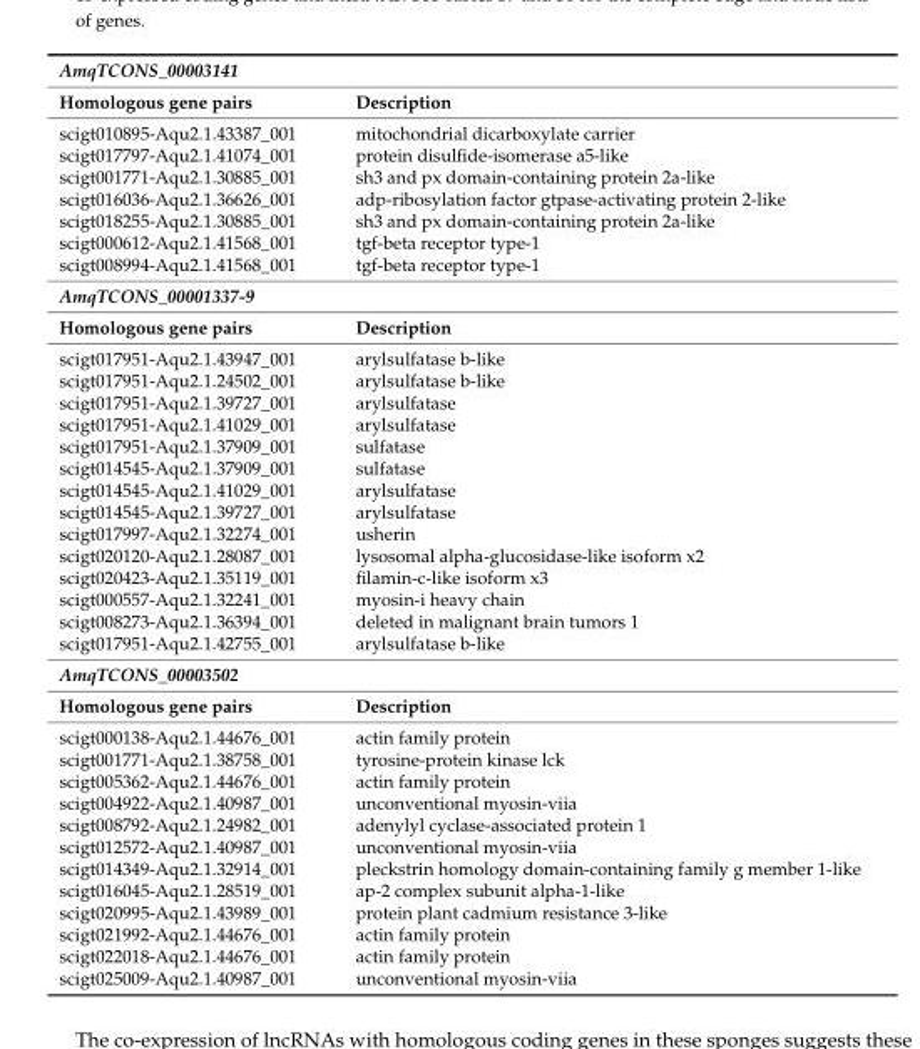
<table><tbody><tr><td colspan="2">AmqTCONS_00003141</td></tr><tr><td>Homologous gene pairs</td><td>Description</td></tr><tr><td>scigt010895-Aqu2.1.43387_001</td><td>mitochondrial dicarboxylate carrier</td></tr><tr><td>scigt017797-Aqu2.1.41074_001</td><td>protein disulfide-isomerase a5-like</td></tr><tr><td>scigt001771-Aqu2.1.30885_001</td><td>sh3 and px domain-containing protein 2a-like</td></tr><tr><td>scigt016036-Aqu2.1.36626_001</td><td>adp-ribosylation factor gtpase-activating protein 2-like</td></tr><tr><td>scigt018255-Aqu2.1.30885_001</td><td>sh3 and px domain-containing protein 2a-like</td></tr><tr><td>scigt000612-Aqu2.1.41568_001</td><td>tgf-beta receptor type-1</td></tr><tr><td>scigt008994-Aqu2.1.41568_001</td><td>tgf-beta receptor type-1</td></tr><tr><td colspan="2">AmqTCONS_00001337-9</td></tr><tr><td>Homologous gene pairs</td><td>Description</td></tr><tr><td>scigt017951-Aqu2.1.43947_001</td><td>arylsulfatase b-like</td></tr><tr><td>scigt017951-Aqu2.1.24502_001</td><td>arylsulfatase b-like</td></tr><tr><td>scigt017951-Aqu2.1.39727_001</td><td>arylsulfatase</td></tr><tr><td>scigt017951-Aqu2.1.41029_001</td><td>arylsulfatase</td></tr><tr><td>scigt017951-Aqu2.1.37909_001</td><td>sulfatase</td></tr><tr><td>scigt014545-Aqu2.1.37909_001</td><td>sulfatase</td></tr><tr><td>scigt014545-Aqu2.1.41029_001</td><td>arylsulfatase</td></tr><tr><td>scigt014545-Aqu2.1.39727_001</td><td>arylsulfatase</td></tr><tr><td>scigt017997-Aqu2.1.32274_001</td><td>usherin</td></tr><tr><td>scigt020120-Aqu2.1.28087_001</td><td>lysosomal alpha-glucosidase-like isoform x2</td></tr><tr><td>scigt020423-Aqu2.1.35119_001</td><td>filamin-c-like isoform x3</td></tr><tr><td>scigt000557-Aqu2.1.32241_001</td><td>myosin-i heavy chain</td></tr><tr><td>scigt008273-Aqu2.1.36394_001</td><td>deleted in malignant brain tumors 1</td></tr><tr><td>scigt017951-Aqu2.1.42755_001</td><td>arylsulfatase b-like</td></tr><tr><td colspan="2">AmqTCONS_00003502</td></tr><tr><td>Homologous gene pairs</td><td>Description</td></tr><tr><td>scigt000138-Aqu2.1.44676_001</td><td>actin family protein</td></tr><tr><td>scigt001771-Aqu2.1.38758_001</td><td>tyrosine-protein kinase lck</td></tr><tr><td>scigt005362-Aqu2.1.44676_001</td><td>actin family protein</td></tr><tr><td>scigt004922-Aqu2.1.40987_001</td><td>unconventional myosin-viia</td></tr><tr><td>scigt008792-Aqu2.1.24982_001</td><td>adenylyl cyclase-associated protein 1</td></tr><tr><td>scigt012572-Aqu2.1.40987_001</td><td>unconventional myosin-viia</td></tr><tr><td>scigt014349-Aqu2.1.32914_001</td><td>pleckstrin homology domain-containing family g member 1-like</td></tr><tr><td>scigt016045-Aqu2.1.28519_001</td><td>ap-2 complex subunit alpha-1-like</td></tr><tr><td>scigt020995-Aqu2.1.43989_001</td><td>protein plant cadmium resistance 3-like</td></tr><tr><td>scigt021992-Aqu2.1.44676_001</td><td>actin family protein</td></tr><tr><td>scigt022018-Aqu2.1.44676_001</td><td>actin family protein</td></tr><tr><td>scigt025009-Aqu2.1.40987_001</td><td>unconventional myosin-viia</td></tr></tbody></table>